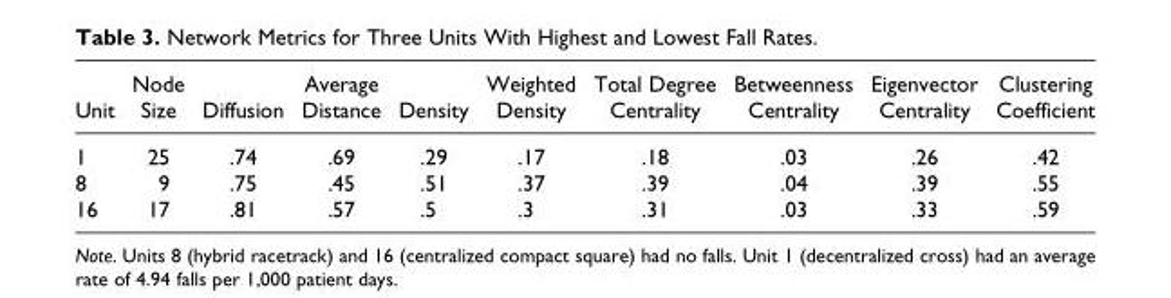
<table><thead><tr><td>Unit</td><td>Node Size</td><td>Diffusion</td><td>Average Distance</td><td>Density</td><td>Weighted Density</td><td>Total Degree Centrality</td><td>Betweenness Centrality</td><td>Eigenvector Centrality</td><td>Clustering Coefficient</td></tr></thead><tbody><tr><td>1</td><td>25</td><td>.74</td><td>.69</td><td>.29</td><td>.17</td><td>.18</td><td>.03</td><td>.26</td><td>.42</td></tr><tr><td>8</td><td>9</td><td>.75</td><td>.45</td><td>.51</td><td>.37</td><td>.39</td><td>.04</td><td>.39</td><td>.55</td></tr><tr><td>16</td><td>17</td><td>.81</td><td>.57</td><td>.5</td><td>.3</td><td>.31</td><td>.03</td><td>.33</td><td>.59</td></tr></tbody></table>